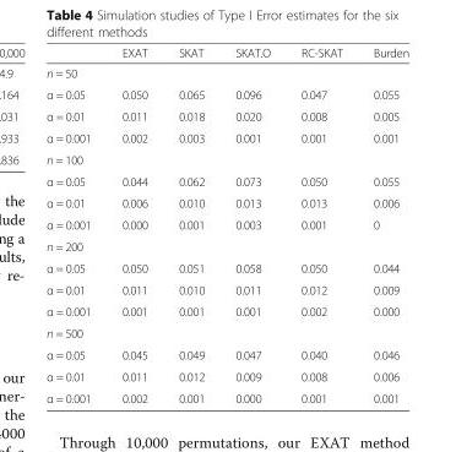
<table><thead><tr><td></td><td>EXAT</td><td>SKAT</td><td>SKAT.O</td><td>RC-SKAT</td><td>Burden</td></tr></thead><tbody><tr><td colspan="6">n = 50</td></tr><tr><td>α = 0.05</td><td>0.050</td><td>0.065</td><td>0.096</td><td>0.047</td><td>0.055</td></tr><tr><td>α = 0.01</td><td>0.011</td><td>0.018</td><td>0.020</td><td>0.008</td><td>0.005</td></tr><tr><td>α = 0.001</td><td>0.002</td><td>0.003</td><td>0.001</td><td>0.001</td><td>0.001</td></tr><tr><td colspan="6">n = 100</td></tr><tr><td>α = 0.05</td><td>0.044</td><td>0.062</td><td>0.073</td><td>0.050</td><td>0.055</td></tr><tr><td>α = 0.01</td><td>0.006</td><td>0.010</td><td>0.013</td><td>0.013</td><td>0.006</td></tr><tr><td>α = 0.001</td><td>0.000</td><td>0.001</td><td>0.003</td><td>0.001</td><td>0</td></tr><tr><td colspan="6">n = 200</td></tr><tr><td>α = 0.05</td><td>0.050</td><td>0.051</td><td>0.058</td><td>0.050</td><td>0.044</td></tr><tr><td>α = 0.01</td><td>0.011</td><td>0.010</td><td>0.011</td><td>0.012</td><td>0.009</td></tr><tr><td>α = 0.001</td><td>0.001</td><td>0.001</td><td>0.001</td><td>0.002</td><td>0.000</td></tr><tr><td colspan="6">n = 500</td></tr><tr><td>α = 0.05</td><td>0.045</td><td>0.049</td><td>0.047</td><td>0.040</td><td>0.046</td></tr><tr><td>α = 0.01</td><td>0.011</td><td>0.012</td><td>0.009</td><td>0.008</td><td>0.006</td></tr><tr><td>α = 0.001</td><td>0.002</td><td>0.001</td><td>0.000</td><td>0.001</td><td>0.001</td></tr></tbody></table>